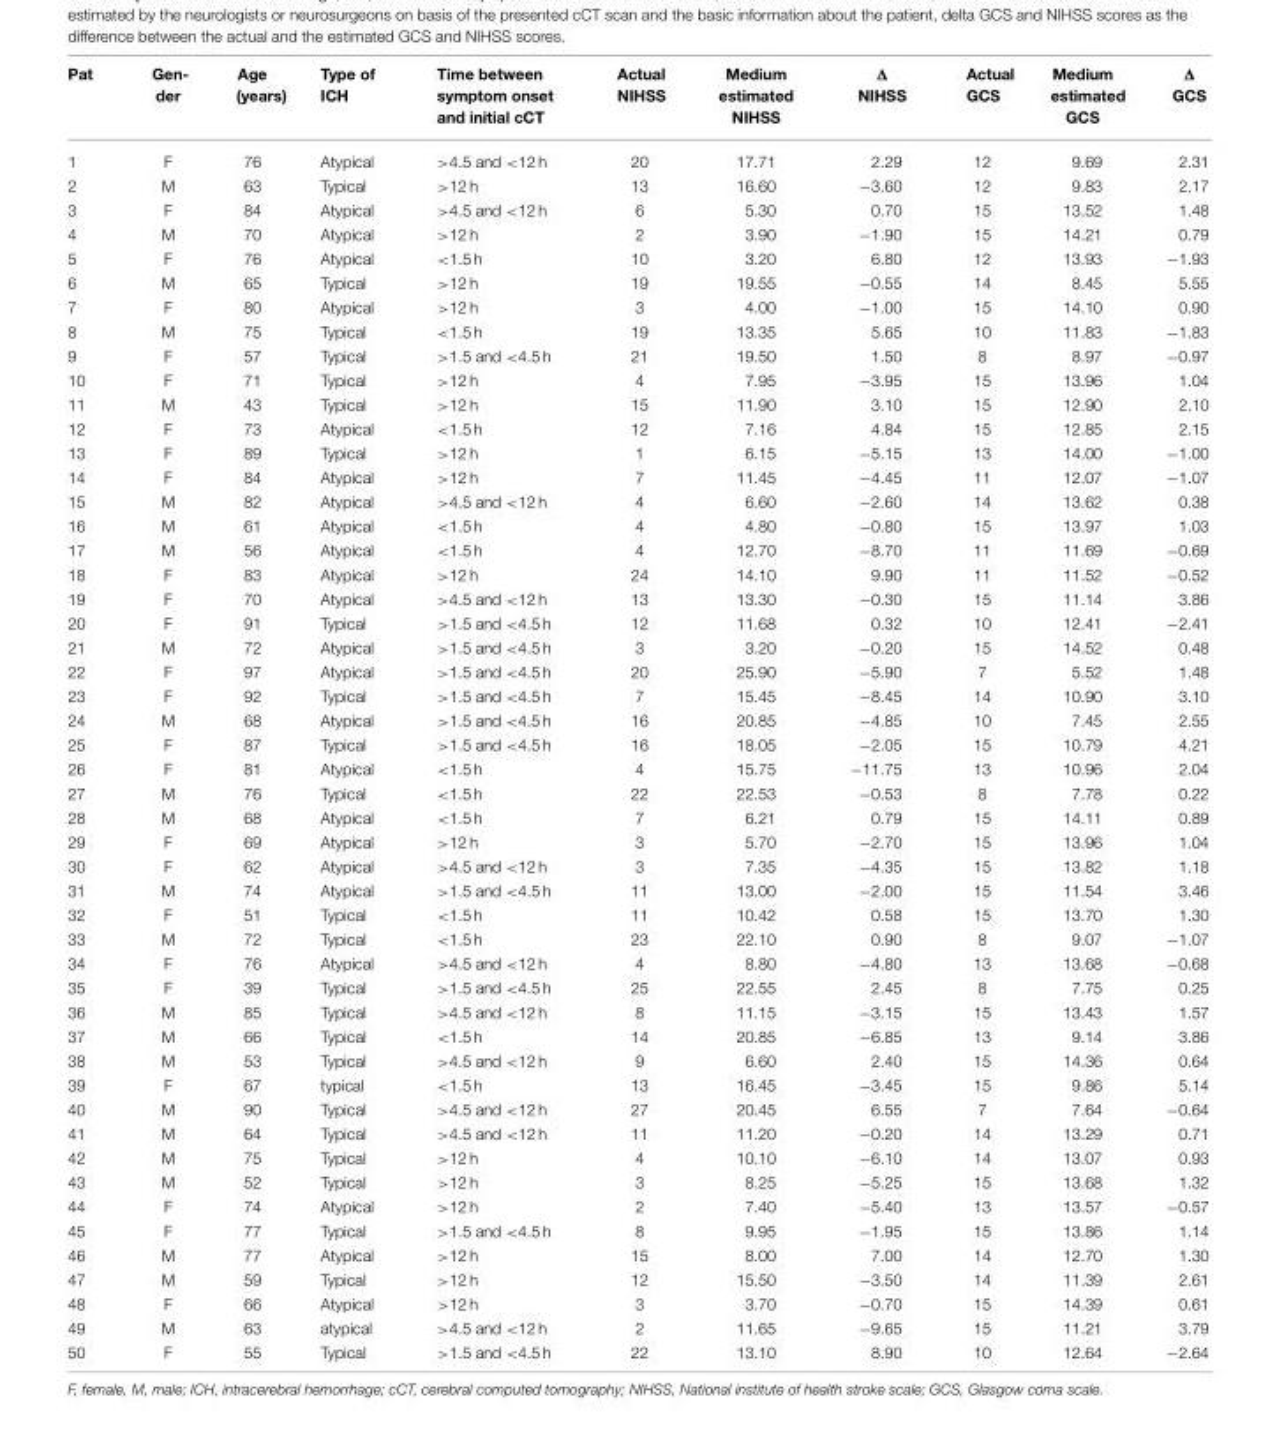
<table><thead><tr><td>Pat</td><td>Gen- der</td><td>Age (years)</td><td>Type of ICH</td><td>Time between symptom onset and initial cCT</td><td>Actual NIHSS</td><td>Medium estimated NIHSS</td><td>Δ NIHSS</td><td>Actual GCS</td><td>Medium estimated GCS</td><td>Δ GCS</td></tr></thead><tbody><tr><td>1</td><td>F</td><td>76</td><td>Atypical</td><td>&gt;4.5 and &lt;12 h</td><td>20</td><td>17.71</td><td>2.29</td><td>12</td><td>9.69</td><td>2.31</td></tr><tr><td>2</td><td>M</td><td>63</td><td>Typical</td><td>&gt;12 h</td><td>13</td><td>16.60</td><td>−3.60</td><td>12</td><td>9.83</td><td>2.17</td></tr><tr><td>3</td><td>F</td><td>84</td><td>Atypical</td><td>&gt;4.5 and &lt;12 h</td><td>6</td><td>5.30</td><td>0.70</td><td>15</td><td>13.52</td><td>1.48</td></tr><tr><td>4</td><td>M</td><td>70</td><td>Atypical</td><td>&gt;12 h</td><td>2</td><td>3.90</td><td>−1.90</td><td>15</td><td>14.21</td><td>0.79</td></tr><tr><td>5</td><td>F</td><td>76</td><td>Atypical</td><td>&lt;1.5 h</td><td>10</td><td>3.20</td><td>6.80</td><td>12</td><td>13.93</td><td>−1.93</td></tr><tr><td>6</td><td>M</td><td>65</td><td>Typical</td><td>&gt;12 h</td><td>19</td><td>19.55</td><td>−0.55</td><td>14</td><td>8.45</td><td>5.55</td></tr><tr><td>7</td><td>F</td><td>80</td><td>Atypical</td><td>&gt;12 h</td><td>3</td><td>4.00</td><td>−1.00</td><td>15</td><td>14.10</td><td>0.90</td></tr><tr><td>8</td><td>M</td><td>75</td><td>Typical</td><td>&lt;1.5 h</td><td>19</td><td>13.35</td><td>5.65</td><td>10</td><td>11.83</td><td>−1.83</td></tr><tr><td>9</td><td>F</td><td>57</td><td>Typical</td><td>&gt;1.5 and &lt;4.5 h</td><td>21</td><td>19.50</td><td>1.50</td><td>8</td><td>8.97</td><td>−0.97</td></tr><tr><td>10</td><td>F</td><td>71</td><td>Typical</td><td>&gt;12 h</td><td>4</td><td>7.95</td><td>−3.95</td><td>15</td><td>13.96</td><td>1.04</td></tr><tr><td>11</td><td>M</td><td>43</td><td>Typical</td><td>&gt;12 h</td><td>15</td><td>11.90</td><td>3.10</td><td>15</td><td>12.90</td><td>2.10</td></tr><tr><td>12</td><td>F</td><td>73</td><td>Atypical</td><td>&lt;1.5 h</td><td>12</td><td>7.16</td><td>4.84</td><td>15</td><td>12.85</td><td>2.15</td></tr><tr><td>13</td><td>F</td><td>89</td><td>Typical</td><td>&gt;12 h</td><td>1</td><td>6.15</td><td>−5.15</td><td>13</td><td>14.00</td><td>−1.00</td></tr><tr><td>14</td><td>F</td><td>84</td><td>Atypical</td><td>&gt;12 h</td><td>7</td><td>11.45</td><td>−4.45</td><td>11</td><td>12.07</td><td>−1.07</td></tr><tr><td>15</td><td>M</td><td>82</td><td>Atypical</td><td>&gt;4.5 and &lt;12 h</td><td>4</td><td>6.60</td><td>−2.60</td><td>14</td><td>13.62</td><td>0.38</td></tr><tr><td>16</td><td>M</td><td>61</td><td>Atypical</td><td>&lt;1.5 h</td><td>4</td><td>4.80</td><td>−0.80</td><td>15</td><td>13.97</td><td>1.03</td></tr><tr><td>17</td><td>M</td><td>56</td><td>Atypical</td><td>&lt;1.5 h</td><td>4</td><td>12.70</td><td>−8.70</td><td>11</td><td>11.69</td><td>−0.69</td></tr><tr><td>18</td><td>F</td><td>83</td><td>Atypical</td><td>&gt;12 h</td><td>24</td><td>14.10</td><td>9.90</td><td>11</td><td>11.52</td><td>−0.52</td></tr><tr><td>19</td><td>F</td><td>70</td><td>Atypical</td><td>&gt;4.5 and &lt;12 h</td><td>13</td><td>13.30</td><td>−0.30</td><td>15</td><td>11.14</td><td>3.86</td></tr><tr><td>20</td><td>F</td><td>91</td><td>Typical</td><td>&gt;1.5 and &lt;4.5 h</td><td>12</td><td>11.68</td><td>0.32</td><td>10</td><td>12.41</td><td>−2.41</td></tr><tr><td>21</td><td>M</td><td>72</td><td>Atypical</td><td>&gt;1.5 and &lt;4.5 h</td><td>3</td><td>3.20</td><td>−0.20</td><td>15</td><td>14.52</td><td>0.48</td></tr><tr><td>22</td><td>F</td><td>97</td><td>Atypical</td><td>&gt;1.5 and &lt;4.5 h</td><td>20</td><td>25.90</td><td>−5.90</td><td>7</td><td>5.52</td><td>1.48</td></tr><tr><td>23</td><td>F</td><td>92</td><td>Typical</td><td>&gt;1.5 and &lt;4.5 h</td><td>7</td><td>15.45</td><td>−8.45</td><td>14</td><td>10.90</td><td>3.10</td></tr><tr><td>24</td><td>M</td><td>68</td><td>Atypical</td><td>&gt;1.5 and &lt;4.5 h</td><td>16</td><td>20.85</td><td>−4.85</td><td>10</td><td>7.45</td><td>2.55</td></tr><tr><td>25</td><td>F</td><td>87</td><td>Typical</td><td>&gt;1.5 and &lt;4.5 h</td><td>16</td><td>18.05</td><td>−2.05</td><td>15</td><td>10.79</td><td>4.21</td></tr><tr><td>26</td><td>F</td><td>81</td><td>Atypical</td><td>&lt;1.5 h</td><td>4</td><td>15.75</td><td>−11.75</td><td>13</td><td>10.96</td><td>2.04</td></tr><tr><td>27</td><td>M</td><td>76</td><td>Typical</td><td>&lt;1.5 h</td><td>22</td><td>22.53</td><td>−0.53</td><td>8</td><td>7.78</td><td>0.22</td></tr><tr><td>28</td><td>M</td><td>68</td><td>Atypical</td><td>&lt;1.5 h</td><td>7</td><td>6.21</td><td>0.79</td><td>15</td><td>14.11</td><td>0.89</td></tr><tr><td>29</td><td>F</td><td>69</td><td>Atypical</td><td>&gt;12 h</td><td>3</td><td>5.70</td><td>−2.70</td><td>15</td><td>13.96</td><td>1.04</td></tr><tr><td>30</td><td>F</td><td>62</td><td>Atypical</td><td>&gt;4.5 and &lt;12 h</td><td>3</td><td>7.35</td><td>−4.35</td><td>15</td><td>13.82</td><td>1.18</td></tr><tr><td>31</td><td>M</td><td>74</td><td>Atypical</td><td>&gt;1.5 and &lt;4.5 h</td><td>11</td><td>13.00</td><td>−2.00</td><td>15</td><td>11.54</td><td>3.46</td></tr><tr><td>32</td><td>F</td><td>51</td><td>Typical</td><td>&lt;1.5 h</td><td>11</td><td>10.42</td><td>0.58</td><td>15</td><td>13.70</td><td>1.30</td></tr><tr><td>33</td><td>M</td><td>72</td><td>Typical</td><td>&lt;1.5 h</td><td>23</td><td>22.10</td><td>0.90</td><td>8</td><td>9.07</td><td>−1.07</td></tr><tr><td>34</td><td>F</td><td>76</td><td>Atypical</td><td>&gt;4.5 and &lt;12 h</td><td>4</td><td>8.80</td><td>−4.80</td><td>13</td><td>13.68</td><td>−0.68</td></tr><tr><td>35</td><td>F</td><td>39</td><td>Typical</td><td>&gt;1.5 and &lt;4.5 h</td><td>25</td><td>22.55</td><td>2.45</td><td>8</td><td>7.75</td><td>0.25</td></tr><tr><td>36</td><td>M</td><td>85</td><td>Typical</td><td>&gt;4.5 and &lt;12 h</td><td>8</td><td>11.15</td><td>−3.15</td><td>15</td><td>13.43</td><td>1.57</td></tr><tr><td>37</td><td>M</td><td>66</td><td>Typical</td><td>&lt;1.5 h</td><td>14</td><td>20.85</td><td>−6.85</td><td>13</td><td>9.14</td><td>3.86</td></tr><tr><td>38</td><td>M</td><td>53</td><td>Typical</td><td>&gt;4.5 and &lt;12 h</td><td>9</td><td>6.60</td><td>2.40</td><td>15</td><td>14.36</td><td>0.64</td></tr><tr><td>39</td><td>F</td><td>67</td><td>typical</td><td>&lt;1.5 h</td><td>13</td><td>16.45</td><td>−3.45</td><td>15</td><td>9.86</td><td>5.14</td></tr><tr><td>40</td><td>M</td><td>90</td><td>Typical</td><td>&gt;4.5 and &lt;12 h</td><td>27</td><td>20.45</td><td>6.55</td><td>7</td><td>7.64</td><td>−0.64</td></tr><tr><td>41</td><td>M</td><td>64</td><td>Typical</td><td>&gt;4.5 and &lt;12 h</td><td>11</td><td>11.20</td><td>−0.20</td><td>14</td><td>13.29</td><td>0.71</td></tr><tr><td>42</td><td>M</td><td>75</td><td>Typical</td><td>&gt;12 h</td><td>4</td><td>10.10</td><td>−6.10</td><td>14</td><td>13.07</td><td>0.93</td></tr><tr><td>43</td><td>M</td><td>52</td><td>Typical</td><td>&gt;12 h</td><td>3</td><td>8.25</td><td>−5.25</td><td>15</td><td>13.68</td><td>1.32</td></tr><tr><td>44</td><td>F</td><td>74</td><td>Atypical</td><td>&gt;12 h</td><td>2</td><td>7.40</td><td>−5.40</td><td>13</td><td>13.57</td><td>−0.57</td></tr><tr><td>45</td><td>F</td><td>77</td><td>Typical</td><td>&gt;1.5 and &lt;4.5 h</td><td>8</td><td>9.95</td><td>−1.95</td><td>15</td><td>13.86</td><td>1.14</td></tr><tr><td>46</td><td>M</td><td>77</td><td>Atypical</td><td>&gt;12 h</td><td>15</td><td>8.00</td><td>7.00</td><td>14</td><td>12.70</td><td>1.30</td></tr><tr><td>47</td><td>M</td><td>59</td><td>Typical</td><td>&gt;12 h</td><td>12</td><td>15.50</td><td>−3.50</td><td>14</td><td>11.39</td><td>2.61</td></tr><tr><td>48</td><td>F</td><td>66</td><td>Atypical</td><td>&gt;12 h</td><td>3</td><td>3.70</td><td>−0.70</td><td>15</td><td>14.39</td><td>0.61</td></tr><tr><td>49</td><td>M</td><td>63</td><td>atypical</td><td>&gt;4.5 and &lt;12 h</td><td>2</td><td>11.65</td><td>−9.65</td><td>15</td><td>11.21</td><td>3.79</td></tr><tr><td>50</td><td>F</td><td>55</td><td>Typical</td><td>&gt;1.5 and &lt;4.5 h</td><td>22</td><td>13.10</td><td>8.90</td><td>10</td><td>12.64</td><td>−2.64</td></tr></tbody></table>